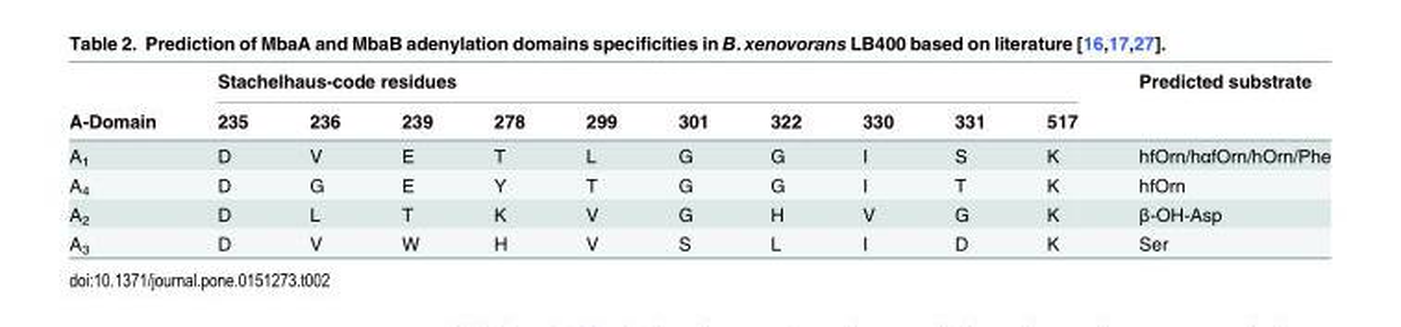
<table><thead><tr><td rowspan="2">A-Domain</td><td colspan="10">Stachelhaus-code residues</td><td rowspan="2">Predicted substrate</td></tr><tr><td>235</td><td>236</td><td>239</td><td>278</td><td>299</td><td>301</td><td>322</td><td>330</td><td>331</td><td>517</td></tr></thead><tbody><tr><td>A<sub>1</sub></td><td>D</td><td>V</td><td>E</td><td>T</td><td>L</td><td>G</td><td>G</td><td>I</td><td>S</td><td>K</td><td>hfOrn/hαfOrn/hOrn/Phe</td></tr><tr><td>A<sub>4</sub></td><td>D</td><td>G</td><td>E</td><td>Y</td><td>T</td><td>G</td><td>G</td><td>I</td><td>T</td><td>K</td><td>hfOrn</td></tr><tr><td>A<sub>2</sub></td><td>D</td><td>L</td><td>T</td><td>K</td><td>V</td><td>G</td><td>H</td><td>V</td><td>G</td><td>K</td><td>β-OH-Asp</td></tr><tr><td>A<sub>3</sub></td><td>D</td><td>V</td><td>W</td><td>H</td><td>V</td><td>S</td><td>L</td><td>I</td><td>D</td><td>K</td><td>Ser</td></tr></tbody></table>